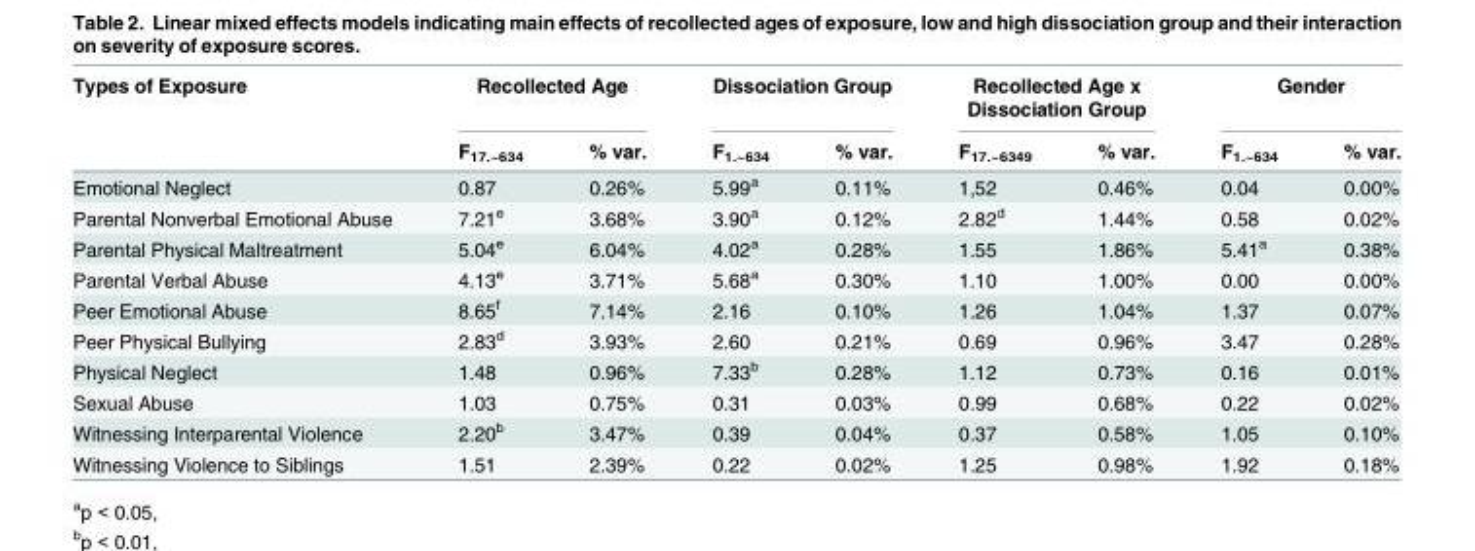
<table><thead><tr><td rowspan="2">Types of Exposure</td><td colspan="2">Recollected Age</td><td colspan="2">Dissociation Group</td><td colspan="2">Recollected Age x Dissociation Group</td><td colspan="2">Gender</td></tr><tr><td>F<sub>17.~634</sub></td><td>% var.</td><td>F<sub>1.~634</sub></td><td>% var.</td><td>F<sub>17.~6349</sub></td><td>% var.</td><td>F<sub>1.~634</sub></td><td>% var.</td></tr></thead><tbody><tr><td>Emotional Neglect</td><td>0.87</td><td>0.26%</td><td>5.99<sup>a</sup></td><td>0.11%</td><td>1,52</td><td>0.46%</td><td>0.04</td><td>0.00%</td></tr><tr><td>Parental Nonverbal Emotional Abuse</td><td>7.21<sup>e</sup></td><td>3.68%</td><td>3.90<sup>a</sup></td><td>0.12%</td><td>2.82<sup>d</sup></td><td>1.44%</td><td>0.58</td><td>0.02%</td></tr><tr><td>Parental Physical Maltreatment</td><td>5.04<sup>e</sup></td><td>6.04%</td><td>4.02<sup>a</sup></td><td>0.28%</td><td>1.55</td><td>1.86%</td><td>5.41<sup>a</sup></td><td>0.38%</td></tr><tr><td>Parental Verbal Abuse</td><td>4.13<sup>e</sup></td><td>3.71%</td><td>5.68<sup>a</sup></td><td>0.30%</td><td>1.10</td><td>1.00%</td><td>0.00</td><td>0.00%</td></tr><tr><td>Peer Emotional Abuse</td><td>8.65<sup>f</sup></td><td>7.14%</td><td>2.16</td><td>0.10%</td><td>1.26</td><td>1.04%</td><td>1.37</td><td>0.07%</td></tr><tr><td>Peer Physical Bullying</td><td>2.83<sup>d</sup></td><td>3.93%</td><td>2.60</td><td>0.21%</td><td>0.69</td><td>0.96%</td><td>3.47</td><td>0.28%</td></tr><tr><td>Physical Neglect</td><td>1.48</td><td>0.96%</td><td>7.33<sup>b</sup></td><td>0.28%</td><td>1.12</td><td>0.73%</td><td>0.16</td><td>0.01%</td></tr><tr><td>Sexual Abuse</td><td>1.03</td><td>0.75%</td><td>0.31</td><td>0.03%</td><td>0.99</td><td>0.68%</td><td>0.22</td><td>0.02%</td></tr><tr><td>Witnessing Interparental Violence</td><td>2.20<sup>b</sup></td><td>3.47%</td><td>0.39</td><td>0.04%</td><td>0.37</td><td>0.58%</td><td>1.05</td><td>0.10%</td></tr><tr><td>Witnessing Violence to Siblings</td><td>1.51</td><td>2.39%</td><td>0.22</td><td>0.02%</td><td>1.25</td><td>0.98%</td><td>1.92</td><td>0.18%</td></tr></tbody></table>